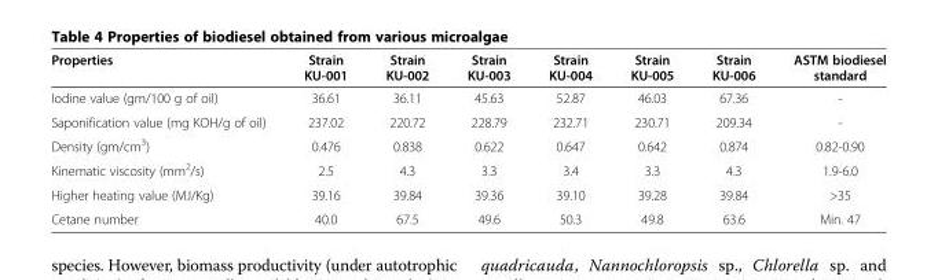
<table><thead><tr><td>Properties</td><td>Strain KU-001</td><td>Strain KU-002</td><td>Strain KU-003</td><td>Strain KU-004</td><td>Strain KU-005</td><td>Strain KU-006</td><td>ASTM biodiesel standard</td></tr></thead><tbody><tr><td>Iodine value (gm/100 g of oil)</td><td>36.61</td><td>36.11</td><td>45.63</td><td>52.87</td><td>46.03</td><td>67.36</td><td>-</td></tr><tr><td>Saponification value (mg KOH/g of oil)</td><td>237.02</td><td>220.72</td><td>228.79</td><td>232.71</td><td>230.71</td><td>209.34</td><td>-</td></tr><tr><td>Density (gm/cm<sup>3</sup>)</td><td>0.476</td><td>0.838</td><td>0.622</td><td>0.647</td><td>0.642</td><td>0.874</td><td>0.82-0.90</td></tr><tr><td>Kinematic viscosity (mm<sup>2</sup>/s)</td><td>2.5</td><td>4.3</td><td>3.3</td><td>3.4</td><td>3.3</td><td>4.3</td><td>1.9-6.0</td></tr><tr><td>Higher heating value (MJ/Kg)</td><td>39.16</td><td>39.84</td><td>39.36</td><td>39.10</td><td>39.28</td><td>39.84</td><td>&gt;35</td></tr><tr><td>Cetane number</td><td>40.0</td><td>67.5</td><td>49.6</td><td>50.3</td><td>49.8</td><td>63.6</td><td>Min. 47</td></tr></tbody></table>